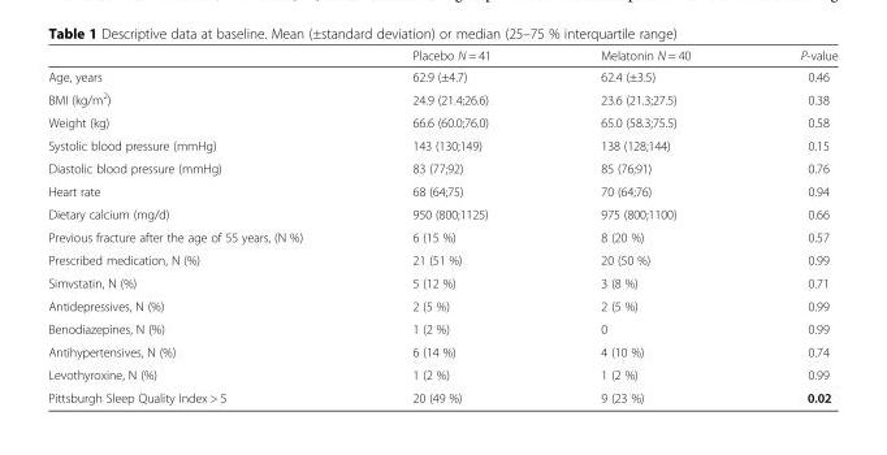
<table><thead><tr><td></td><td>Placebo N = 41</td><td>Melatonin N = 40</td><td>P-value</td></tr></thead><tbody><tr><td>Age, years</td><td>62.9 (±4.7)</td><td>62.4 (±3.5)</td><td>0.46</td></tr><tr><td>BMI (kg/m<sup>2</sup>)</td><td>24.9 (21.4;26.6)</td><td>23.6 (21.3;27.5)</td><td>0.38</td></tr><tr><td>Weight (kg)</td><td>66.6 (60.0;76.0)</td><td>65.0 (58.3;75.5)</td><td>0.58</td></tr><tr><td>Systolic blood pressure (mmHg)</td><td>143 (130;149)</td><td>138 (128;144)</td><td>0.15</td></tr><tr><td>Diastolic blood pressure (mmHg)</td><td>83 (77;92)</td><td>85 (76;91)</td><td>0.76</td></tr><tr><td>Heart rate</td><td>68 (64;75)</td><td>70 (64;76)</td><td>0.94</td></tr><tr><td>Dietary calcium (mg/d)</td><td>950 (800;1125)</td><td>975 (800;1100)</td><td>0.66</td></tr><tr><td>Previous fracture after the age of 55 years, (N %)</td><td>6 (15 %)</td><td>8 (20 %)</td><td>0.57</td></tr><tr><td>Prescribed medication, N (%)</td><td>21 (51 %)</td><td>20 (50 %)</td><td>0.99</td></tr><tr><td>Simvstatin, N (%)</td><td>5 (12 %)</td><td>3 (8 %)</td><td>0.71</td></tr><tr><td>Antidepressives, N (%)</td><td>2 (5 %)</td><td>2 (5 %)</td><td>0.99</td></tr><tr><td>Benodiazepines, N (%)</td><td>1 (2 %)</td><td>0</td><td>0.99</td></tr><tr><td>Antihypertensives, N (%)</td><td>6 (14 %)</td><td>4 (10 %)</td><td>0.74</td></tr><tr><td>Levothyroxine, N (%)</td><td>1 (2 %)</td><td>1 (2 %)</td><td>0.99</td></tr><tr><td>Pittsburgh Sleep Quality Index &gt; 5</td><td>20 (49 %)</td><td>9 (23 %)</td><td>0.02</td></tr></tbody></table>